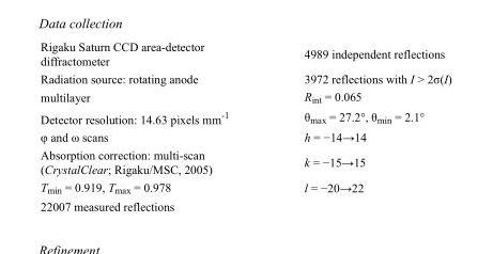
<table><tbody><tr><td>Rigaku Saturn CCD area-detector diffractometer</td><td>4989 independent reflections</td></tr><tr><td>Radiation source: rotating anode</td><td>3972 reflections with I &gt; 2σ(I)</td></tr><tr><td>multilayer</td><td>R<sub>int</sub> = 0.065</td></tr><tr><td>Detector resolution: 14.63 pixels mm<sup>-1</sup></td><td>θ<sub>max</sub> = 27.2°, θ<sub>min</sub> = 2.1°</td></tr><tr><td>φ and ω scans</td><td>h = −14→14</td></tr><tr><td>Absorption correction: multi-scan (CrystalClear; Rigaku/MSC, 2005)</td><td>k = −15→15</td></tr><tr><td>T<sub>min</sub> = 0.919, T<sub>max</sub> = 0.978</td><td>l = −20→22</td></tr><tr><td>22007 measured reflections</td><td></td></tr></tbody></table>